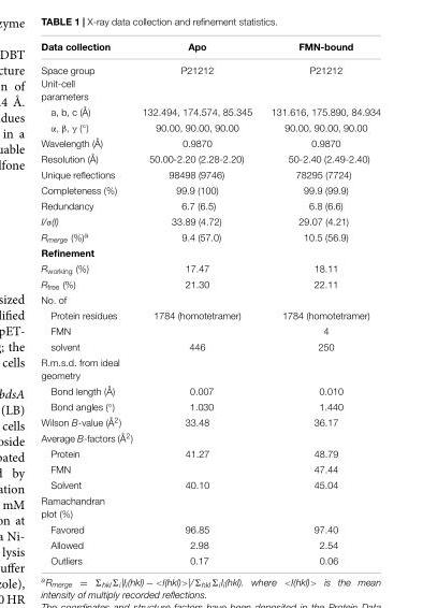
<table><thead><tr><td>Data collection</td><td>Apo</td><td>FMN-bound</td></tr></thead><tbody><tr><td>Space group Unit-cell parameters</td><td>P21212</td><td>P21212</td></tr><tr><td>a, b, c (Å)</td><td>132.494, 174.574, 85.345</td><td>131.616, 175.890, 84.934</td></tr><tr><td>α, β, γ (◦)</td><td>90.00, 90.00, 90.00</td><td>90.00, 90.00, 90.00</td></tr><tr><td>Wavelength (Å)</td><td>0.9870</td><td>0.9870</td></tr><tr><td>Resolution (Å)</td><td>50.00-2.20 (2.28-2.20)</td><td>50-2.40 (2.49-2.40)</td></tr><tr><td>Unique reflections</td><td>98498 (9746)</td><td>78295 (7724)</td></tr><tr><td>Completeness (%)</td><td>99.9 (100)</td><td>99.9 (99.9)</td></tr><tr><td>Redundancy</td><td>6.7 (6.5)</td><td>6.8 (6.6)</td></tr><tr><td>I/σ(I)</td><td>33.89 (4.72)</td><td>29.07 (4.21)</td></tr><tr><td>R<sub>merge</sub> (%)<sup>a</sup></td><td>9.4 (57.0)</td><td>10.5 (56.9)</td></tr><tr><td colspan="3">Refinement</td></tr><tr><td>R<sub>working</sub> (%)</td><td>17.47</td><td>18.11</td></tr><tr><td>R<sub>free</sub> (%)</td><td>21.30</td><td>22.11</td></tr><tr><td colspan="3">No. of</td></tr><tr><td>Protein residues</td><td>1784 (homotetramer)</td><td>1784 (homotetramer)</td></tr><tr><td>FMN</td><td></td><td>4</td></tr><tr><td>solvent</td><td>446</td><td>250</td></tr><tr><td colspan="3">R.m.s.d. from ideal geometry</td></tr><tr><td>Bond length (Å)</td><td>0.007</td><td>0.010</td></tr><tr><td>Bond angles (◦)</td><td>1.030</td><td>1.440</td></tr><tr><td>Wilson B-value (Å<sup>2</sup>)</td><td>33.48</td><td>36.17</td></tr><tr><td colspan="3">Average B-factors (Å<sup>2</sup>)</td></tr><tr><td>Protein</td><td>41.27</td><td>48.79</td></tr><tr><td>FMN</td><td></td><td>47.44</td></tr><tr><td>Solvent</td><td>40.10</td><td>45.04</td></tr><tr><td colspan="3">Ramachandran plot (%)</td></tr><tr><td>Favored</td><td>96.85</td><td>97.40</td></tr><tr><td>Allowed</td><td>2.98</td><td>2.54</td></tr><tr><td>Outliers</td><td>0.17</td><td>0.06</td></tr></tbody></table>